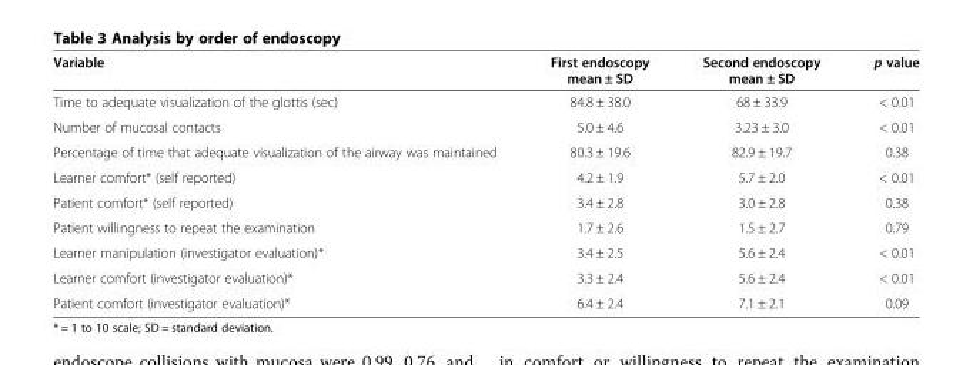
<table><thead><tr><td>Variable</td><td>First endoscopy mean ± SD</td><td>Second endoscopy mean ± SD</td><td>p value</td></tr></thead><tbody><tr><td>Time to adequate visualization of the glottis (sec)</td><td>84.8 ± 38.0</td><td>68 ± 33.9</td><td>&lt; 0.01</td></tr><tr><td>Number of mucosal contacts</td><td>5.0 ± 4.6</td><td>3.23 ± 3.0</td><td>&lt; 0.01</td></tr><tr><td>Percentage of time that adequate visualization of the airway was maintained</td><td>80.3 ± 19.6</td><td>82.9 ± 19.7</td><td>0.38</td></tr><tr><td>Learner comfort* (self reported)</td><td>4.2 ± 1.9</td><td>5.7 ± 2.0</td><td>&lt; 0.01</td></tr><tr><td>Patient comfort* (self reported)</td><td>3.4 ± 2.8</td><td>3.0 ± 2.8</td><td>0.38</td></tr><tr><td>Patient willingness to repeat the examination</td><td>1.7 ± 2.6</td><td>1.5 ± 2.7</td><td>0.79</td></tr><tr><td>Learner manipulation (investigator evaluation)*</td><td>3.4 ± 2.5</td><td>5.6 ± 2.4</td><td>&lt; 0.01</td></tr><tr><td>Learner comfort (investigator evaluation)*</td><td>3.3 ± 2.4</td><td>5.6 ± 2.4</td><td>&lt; 0.01</td></tr><tr><td>Patient comfort (investigator evaluation)*</td><td>6.4 ± 2.4</td><td>7.1 ± 2.1</td><td>0.09</td></tr></tbody></table>